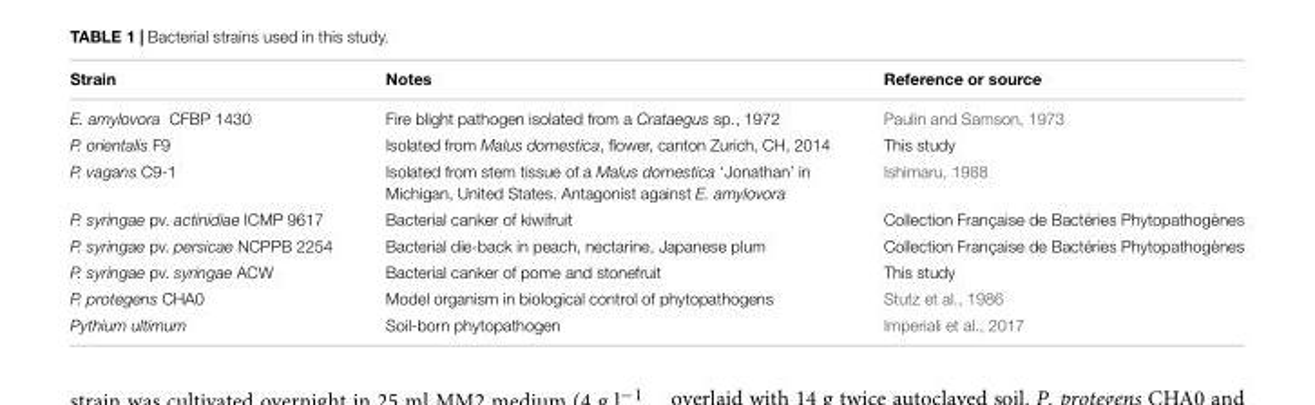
<table><thead><tr><td>Strain</td><td>Notes</td><td>Reference or source</td></tr></thead><tbody><tr><td>E. amylovora CFBP 1430</td><td>Fire blight pathogen isolated from a Crataegus sp., 1972</td><td>Paulin and Samson, 1973</td></tr><tr><td>P. orientalis F9</td><td>Isolated from Malus domestica, flower, canton Zurich, CH, 2014</td><td>This study</td></tr><tr><td>P. vagans C9-1</td><td>Isolated from stem tissue of a Malus domestica ‘Jonathan’ in Michigan, United States. Antagonist against E. amylovora</td><td>Ishimaru, 1988</td></tr><tr><td>P. syringae pv. actinidiae ICMP 9617</td><td>Bacterial canker of kiwifruit</td><td>Collection Française de Bactéries Phytopathogènes</td></tr><tr><td>P. syringae pv. persicae NCPPB 2254</td><td>Bacterial die-back in peach, nectarine, Japanese plum</td><td>Collection Française de Bactéries Phytopathogènes</td></tr><tr><td>P. syringae pv. syringae ACW</td><td>Bacterial canker of pome and stonefruit</td><td>This study</td></tr><tr><td>P. protegens CHA0</td><td>Model organism in biological control of phytopathogens</td><td>Stutz et al., 1986</td></tr><tr><td>Pythium ultimum</td><td>Soil-born phytopathogen</td><td>Imperiali et al., 2017</td></tr></tbody></table>